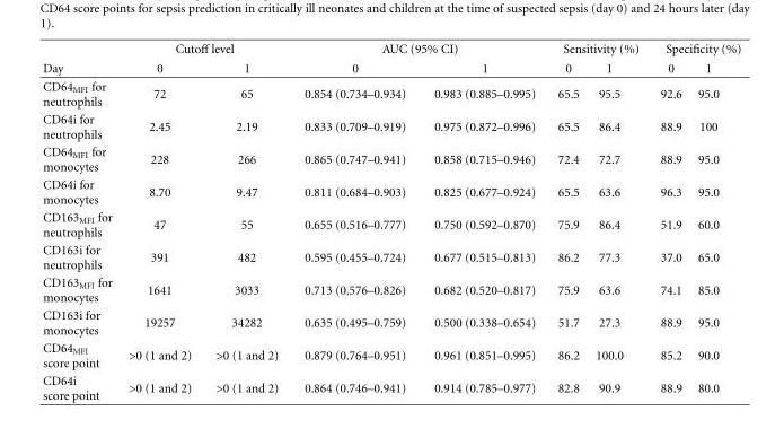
<table><thead><tr><td rowspan="2">Day</td><td colspan="2">Cutoff level</td><td colspan="2">AUC (95% CI)</td><td colspan="2">Sensitivity (%)</td><td colspan="2">Specificity (%)</td></tr><tr><td>0</td><td>1</td><td>0</td><td>1</td><td>0</td><td>1</td><td>0</td><td>1</td></tr></thead><tbody><tr><td>CD64<sub>MFI</sub> for neutrophils</td><td>72</td><td>65</td><td>0.854 (0.734–0.934)</td><td>0.983 (0.885–0.995)</td><td>65.5</td><td>95.5</td><td>92.6</td><td>95.0</td></tr><tr><td>CD64i for neutrophils</td><td>2.45</td><td>2.19</td><td>0.833 (0.709–0.919)</td><td>0.975 (0.872–0.996)</td><td>65.5</td><td>86.4</td><td>88.9</td><td>100</td></tr><tr><td>CD64<sub>MFI</sub> for monocytes</td><td>228</td><td>266</td><td>0.865 (0.747–0.941)</td><td>0.858 (0.715–0.946)</td><td>72.4</td><td>72.7</td><td>88.9</td><td>95.0</td></tr><tr><td>CD64i for monocytes</td><td>8.70</td><td>9.47</td><td>0.811 (0.684–0.903)</td><td>0.825 (0.677–0.924)</td><td>65.5</td><td>63.6</td><td>96.3</td><td>95.0</td></tr><tr><td>CD163<sub>MFI</sub> for neutrophils</td><td>47</td><td>55</td><td>0.655 (0.516–0.777)</td><td>0.750 (0.592–0.870)</td><td>75.9</td><td>86.4</td><td>51.9</td><td>60.0</td></tr><tr><td>CD163i for neutrophils</td><td>391</td><td>482</td><td>0.595 (0.455–0.724)</td><td>0.677 (0.515–0.813)</td><td>86.2</td><td>77.3</td><td>37.0</td><td>65.0</td></tr><tr><td>CD163<sub>MFI</sub> for monocytes</td><td>1641</td><td>3033</td><td>0.713 (0.576–0.826)</td><td>0.682 (0.520–0.817)</td><td>75.9</td><td>63.6</td><td>74.1</td><td>85.0</td></tr><tr><td>CD163i for monocytes</td><td>19257</td><td>34282</td><td>0.635 (0.495–0.759)</td><td>0.500 (0.338–0.654)</td><td>51.7</td><td>27.3</td><td>88.9</td><td>95.0</td></tr><tr><td>CD64<sub>MFI</sub> score point</td><td>&gt;0 (1 and 2)</td><td>&gt;0 (1 and 2)</td><td>0.879 (0.764–0.951)</td><td>0.961 (0.851–0.995)</td><td>86.2</td><td>100.0</td><td>85.2</td><td>90.0</td></tr><tr><td>CD64i score point</td><td>&gt;0 (1 and 2)</td><td>&gt;0 (1 and 2)</td><td>0.864 (0.746–0.941)</td><td>0.914 (0.785–0.977)</td><td>82.8</td><td>90.9</td><td>88.9</td><td>80.0</td></tr></tbody></table>